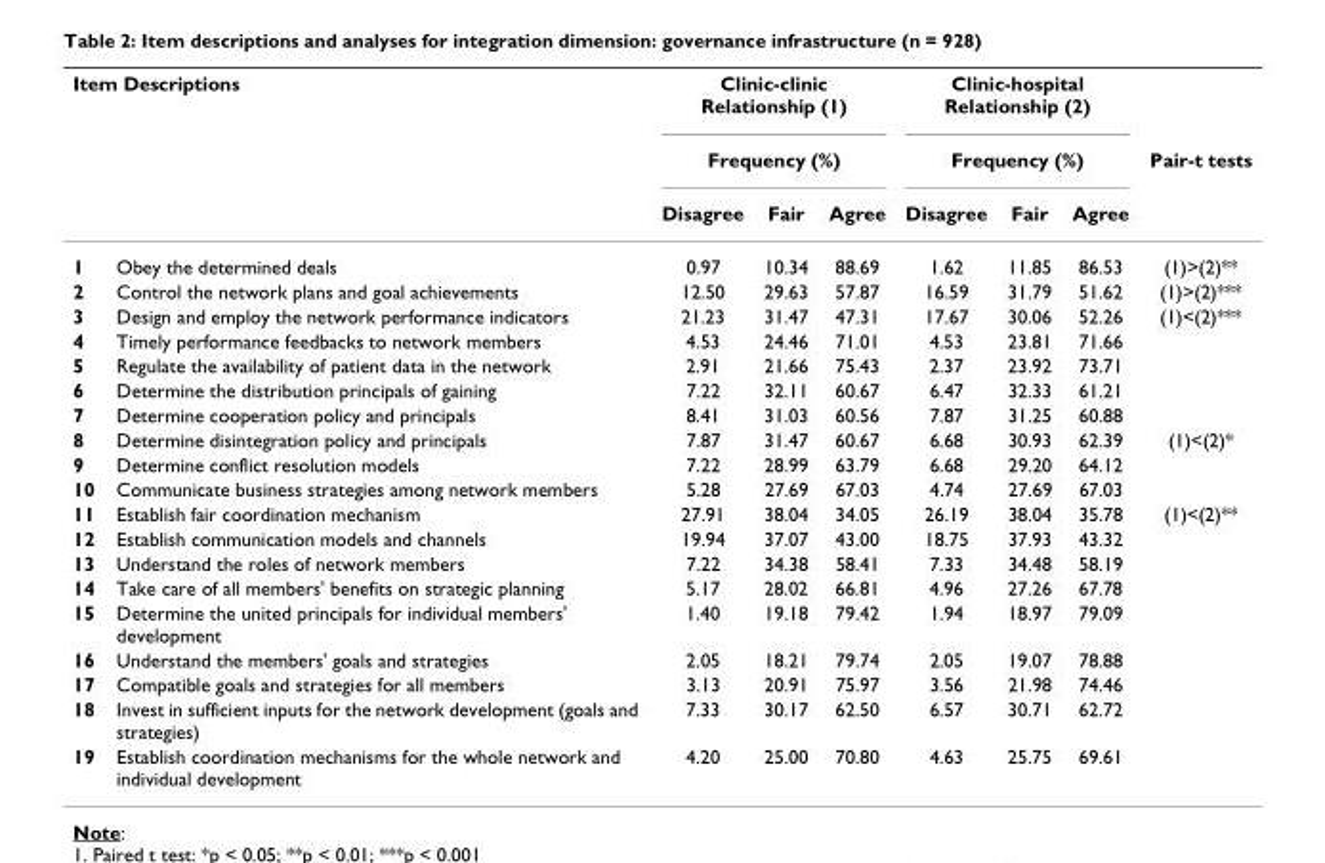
<table><thead><tr><td colspan="2">Item Descriptions</td><td rowspan="2" colspan="3">Clinic-clinic Relationship (1) Frequency (%)</td><td rowspan="2" colspan="3">Clinic-hospital Relationship (2) Frequency (%)</td><td rowspan="3">Pair-t tests</td></tr><tr><td rowspan="2"></td><td rowspan="2"></td></tr><tr><td>Disagree</td><td>Fair</td><td>Agree</td><td>Disagree</td><td>Fair</td><td>Agree</td></tr></thead><tbody><tr><td>1</td><td>Obey the determined deals</td><td>0.97</td><td>10.34</td><td>88.69</td><td>1.62</td><td>11.85</td><td>86.53</td><td>(1)&gt;(2)**</td></tr><tr><td>2</td><td>Control the network plans and goal achievements</td><td>12.50</td><td>29.63</td><td>57.87</td><td>16.59</td><td>31.79</td><td>51.62</td><td>(1)&gt;(2)***</td></tr><tr><td>3</td><td>Design and employ the network performance indicators</td><td>21.23</td><td>31.47</td><td>47.31</td><td>17.67</td><td>30.06</td><td>52.26</td><td>(1)&lt;(2)***</td></tr><tr><td>4</td><td>Timely performance feedbacks to network members</td><td>4.53</td><td>24.46</td><td>71.01</td><td>4.53</td><td>23.81</td><td>71.66</td><td></td></tr><tr><td>5</td><td>Regulate the availability of patient data in the network</td><td>2.91</td><td>21.66</td><td>75.43</td><td>2.37</td><td>23.92</td><td>73.71</td><td></td></tr><tr><td>6</td><td>Determine the distribution principals of gaining</td><td>7.22</td><td>32.11</td><td>60.67</td><td>6.47</td><td>32.33</td><td>61.21</td><td></td></tr><tr><td>7</td><td>Determine cooperation policy and principals</td><td>8.41</td><td>31.03</td><td>60.56</td><td>7.87</td><td>31.25</td><td>60.88</td><td></td></tr><tr><td>8</td><td>Determine disintegration policy and principals</td><td>7.87</td><td>31.47</td><td>60.67</td><td>6.68</td><td>30.93</td><td>62.39</td><td>(1)&lt;(2)*</td></tr><tr><td>9</td><td>Determine conflict resolution models</td><td>7.22</td><td>28.99</td><td>63.79</td><td>6.68</td><td>29.20</td><td>64.12</td><td></td></tr><tr><td>10</td><td>Communicate business strategies among network members</td><td>5.28</td><td>27.69</td><td>67.03</td><td>4.74</td><td>27.69</td><td>67.03</td><td></td></tr><tr><td>11</td><td>Establish fair coordination mechanism</td><td>27.91</td><td>38.04</td><td>34.05</td><td>26.19</td><td>38.04</td><td>35.78</td><td>(1)&lt;(2)**</td></tr><tr><td>12</td><td>Establish communication models and channels</td><td>19.94</td><td>37.07</td><td>43.00</td><td>18.75</td><td>37.93</td><td>43.32</td><td></td></tr><tr><td>13</td><td>Understand the roles of network members</td><td>7.22</td><td>34.38</td><td>58.41</td><td>7.33</td><td>34.48</td><td>58.19</td><td></td></tr><tr><td>14</td><td>Take care of all members&#x27; benefits on strategic planning</td><td>5.17</td><td>28.02</td><td>66.81</td><td>4.96</td><td>27.26</td><td>67.78</td><td></td></tr><tr><td>15</td><td>Determine the united principals for individual members&#x27; development</td><td>1.40</td><td>19.18</td><td>79.42</td><td>1.94</td><td>18.97</td><td>79.09</td><td></td></tr><tr><td>16</td><td>Understand the members&#x27; goals and strategies</td><td>2.05</td><td>18.21</td><td>79.74</td><td>2.05</td><td>19.07</td><td>78.88</td><td></td></tr><tr><td>17</td><td>Compatible goals and strategies for all members</td><td>3.13</td><td>20.91</td><td>75.97</td><td>3.56</td><td>21.98</td><td>74.46</td><td></td></tr><tr><td>18</td><td>Invest in sufficient inputs for the network development (goals and strategies)</td><td>7.33</td><td>30.17</td><td>62.50</td><td>6.57</td><td>30.71</td><td>62.72</td><td></td></tr><tr><td>19</td><td>Establish coordination mechanisms for the whole network and individual development</td><td>4.20</td><td>25.00</td><td>70.80</td><td>4.63</td><td>25.75</td><td>69.61</td><td></td></tr></tbody></table>